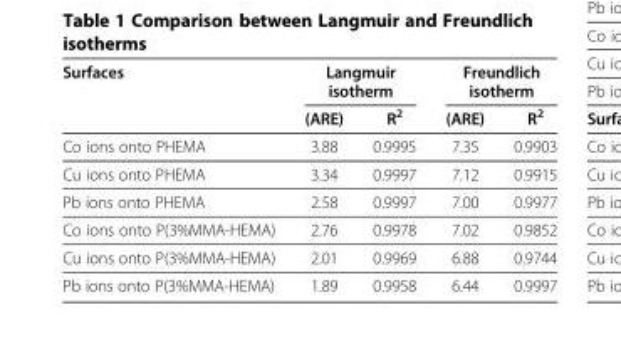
<table><thead><tr><td rowspan="2">Surfaces</td><td colspan="2">Langmuir isotherm</td><td colspan="2">Freundlich isotherm</td></tr><tr><td>(ARE)</td><td>R<sup>2</sup></td><td>(ARE)</td><td>R<sup>2</sup></td></tr></thead><tbody><tr><td>Co ions onto PHEMA</td><td>3.88</td><td>0.9995</td><td>7.35</td><td>0.9903</td></tr><tr><td>Cu ions onto PHEMA</td><td>3.34</td><td>0.9997</td><td>7.12</td><td>0.9915</td></tr><tr><td>Pb ions onto PHEMA</td><td>2.58</td><td>0.9997</td><td>7.00</td><td>0.9977</td></tr><tr><td>Co ions onto P(3%MMA-HEMA)</td><td>2.76</td><td>0.9978</td><td>7.02</td><td>0.9852</td></tr><tr><td>Cu ions onto P(3%MMA-HEMA)</td><td>2.01</td><td>0.9969</td><td>6.88</td><td>0.9744</td></tr><tr><td>Pb ions onto P(3%MMA-HEMA)</td><td>1.89</td><td>0.9958</td><td>6.44</td><td>0.9997</td></tr></tbody></table>